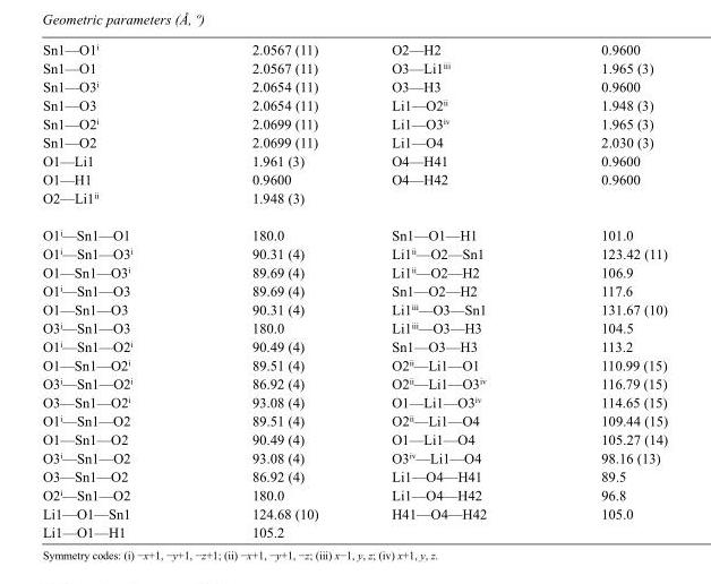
<table><tbody><tr><td>Sn1—O1<sup>i</sup></td><td>2.0567 (11)</td><td>O2—H2</td><td>0.9600</td></tr><tr><td>Sn1—O1</td><td>2.0567 (11)</td><td>O3—Li1<sup>iii</sup></td><td>1.965 (3)</td></tr><tr><td>Sn1—O3<sup>i</sup></td><td>2.0654 (11)</td><td>O3—H3</td><td>0.9600</td></tr><tr><td>Sn1—O3</td><td>2.0654 (11)</td><td>Li1—O2<sup>ii</sup></td><td>1.948 (3)</td></tr><tr><td>Sn1—O2<sup>i</sup></td><td>2.0699 (11)</td><td>Li1—O3<sup>iv</sup></td><td>1.965 (3)</td></tr><tr><td>Sn1—O2</td><td>2.0699 (11)</td><td>Li1—O4</td><td>2.030 (3)</td></tr><tr><td>O1—Li1</td><td>1.961 (3)</td><td>O4—H41</td><td>0.9600</td></tr><tr><td>O1—H1</td><td>0.9600</td><td>O4—H42</td><td>0.9600</td></tr><tr><td>O2—Li1<sup>ii</sup></td><td>1.948 (3)</td><td></td><td></td></tr><tr><td>O1<sup>i</sup>—Sn1—O1</td><td>180.0</td><td>Sn1—O1—H1</td><td>101.0</td></tr><tr><td>O1<sup>i</sup>—Sn1—O3<sup>i</sup></td><td>90.31 (4)</td><td>Li1<sup>ii</sup>—O2—Sn1</td><td>123.42 (11)</td></tr><tr><td>O1—Sn1—O3<sup>i</sup></td><td>89.69 (4)</td><td>Li1<sup>ii</sup>—O2—H2</td><td>106.9</td></tr><tr><td>O1<sup>i</sup>—Sn1—O3</td><td>89.69 (4)</td><td>Sn1—O2—H2</td><td>117.6</td></tr><tr><td>O1—Sn1—O3</td><td>90.31 (4)</td><td>Li1<sup>iii</sup>—O3—Sn1</td><td>131.67 (10)</td></tr><tr><td>O3<sup>i</sup>—Sn1—O3</td><td>180.0</td><td>Li1<sup>iii</sup>—O3—H3</td><td>104.5</td></tr><tr><td>O1<sup>i</sup>—Sn1—O2<sup>i</sup></td><td>90.49 (4)</td><td>Sn1—O3—H3</td><td>113.2</td></tr><tr><td>O1—Sn1—O2<sup>i</sup></td><td>89.51 (4)</td><td>O2<sup>ii</sup>—Li1—O1</td><td>110.99 (15)</td></tr><tr><td>O3<sup>i</sup>—Sn1—O2<sup>i</sup></td><td>86.92 (4)</td><td>O2<sup>ii</sup>—Li1—O3<sup>iv</sup></td><td>116.79 (15)</td></tr><tr><td>O3—Sn1—O2<sup>i</sup></td><td>93.08 (4)</td><td>O1—Li1—O3<sup>iv</sup></td><td>114.65 (15)</td></tr><tr><td>O1<sup>i</sup>—Sn1—O2</td><td>89.51 (4)</td><td>O2<sup>ii</sup>—Li1—O4</td><td>109.44 (15)</td></tr><tr><td>O1—Sn1—O2</td><td>90.49 (4)</td><td>O1—Li1—O4</td><td>105.27 (14)</td></tr><tr><td>O3<sup>i</sup>—Sn1—O2</td><td>93.08 (4)</td><td>O3<sup>iv</sup>—Li1—O4</td><td>98.16 (13)</td></tr><tr><td>O3—Sn1—O2</td><td>86.92 (4)</td><td>Li1—O4—H41</td><td>89.5</td></tr><tr><td>O2<sup>i</sup>—Sn1—O2</td><td>180.0</td><td>Li1—O4—H42</td><td>96.8</td></tr><tr><td>Li1—O1—Sn1</td><td>124.68 (10)</td><td>H41—O4—H42</td><td>105.0</td></tr><tr><td>Li1—O1—H1</td><td>105.2</td><td></td><td></td></tr></tbody></table>